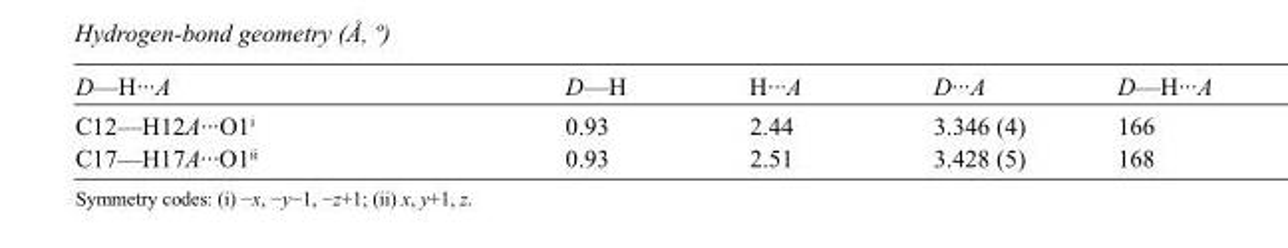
<table><tbody><tr><td>D—H···A</td><td>D—H</td><td>H···A</td><td>D···A</td><td>D—H···A</td></tr><tr><td>C12—H12A···O1<sup>i</sup></td><td>0.93</td><td>2.44</td><td>3.346 (4)</td><td>166</td></tr><tr><td>C17—H17A···O1<sup>ii</sup></td><td>0.93</td><td>2.51</td><td>3.428 (5)</td><td>168</td></tr></tbody></table>